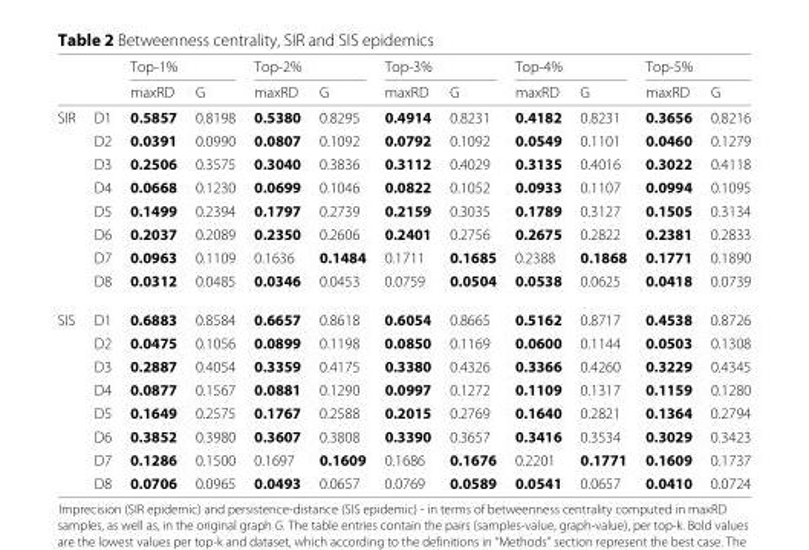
<table><thead><tr><td rowspan="2"></td><td rowspan="2"></td><td colspan="2">Top-1%</td><td colspan="2">Top-2%</td><td colspan="2">Top-3%</td><td colspan="2">Top-4%</td><td colspan="2">Top-5%</td></tr><tr><td>maxRD</td><td>G</td><td>maxRD</td><td>G</td><td>maxRD</td><td>G</td><td>maxRD</td><td>G</td><td>maxRD</td><td>G</td></tr></thead><tbody><tr><td rowspan="8">SIR</td><td>D1</td><td>0.5857</td><td>0.8198</td><td>0.5380</td><td>0.8295</td><td>0.4914</td><td>0.8231</td><td>0.4182</td><td>0.8231</td><td>0.3656</td><td>0.8216</td></tr><tr><td>D2</td><td>0.0391</td><td>0.0990</td><td>0.0807</td><td>0.1092</td><td>0.0792</td><td>0.1092</td><td>0.0549</td><td>0.1101</td><td>0.0460</td><td>0.1279</td></tr><tr><td>D3</td><td>0.2506</td><td>0.3575</td><td>0.3040</td><td>0.3836</td><td>0.3112</td><td>0.4029</td><td>0.3135</td><td>0.4016</td><td>0.3022</td><td>0.4118</td></tr><tr><td>D4</td><td>0.0668</td><td>0.1230</td><td>0.0699</td><td>0.1046</td><td>0.0822</td><td>0.1052</td><td>0.0933</td><td>0.1107</td><td>0.0994</td><td>0.1095</td></tr><tr><td>D5</td><td>0.1499</td><td>0.2394</td><td>0.1797</td><td>0.2739</td><td>0.2159</td><td>0.3035</td><td>0.1789</td><td>0.3127</td><td>0.1505</td><td>0.3134</td></tr><tr><td>D6</td><td>0.2037</td><td>0.2089</td><td>0.2350</td><td>0.2606</td><td>0.2401</td><td>0.2756</td><td>0.2675</td><td>0.2822</td><td>0.2381</td><td>0.2833</td></tr><tr><td>D7</td><td>0.0963</td><td>0.1109</td><td>0.1636</td><td>0.1484</td><td>0.1711</td><td>0.1685</td><td>0.2388</td><td>0.1868</td><td>0.1771</td><td>0.1890</td></tr><tr><td>D8</td><td>0.0312</td><td>0.0485</td><td>0.0346</td><td>0.0453</td><td>0.0759</td><td>0.0504</td><td>0.0538</td><td>0.0625</td><td>0.0418</td><td>0.0739</td></tr><tr><td rowspan="8">SIS</td><td>D1</td><td>0.6883</td><td>0.8584</td><td>0.6657</td><td>0.8618</td><td>0.6054</td><td>0.8665</td><td>0.5162</td><td>0.8717</td><td>0.4538</td><td>0.8726</td></tr><tr><td>D2</td><td>0.0475</td><td>0.1056</td><td>0.0899</td><td>0.1198</td><td>0.0850</td><td>0.1169</td><td>0.0600</td><td>0.1144</td><td>0.0503</td><td>0.1308</td></tr><tr><td>D3</td><td>0.2887</td><td>0.4054</td><td>0.3359</td><td>0.4175</td><td>0.3380</td><td>0.4326</td><td>0.3366</td><td>0.4260</td><td>0.3229</td><td>0.4345</td></tr><tr><td>D4</td><td>0.0877</td><td>0.1567</td><td>0.0881</td><td>0.1290</td><td>0.0997</td><td>0.1272</td><td>0.1109</td><td>0.1317</td><td>0.1159</td><td>0.1280</td></tr><tr><td>D5</td><td>0.1649</td><td>0.2575</td><td>0.1767</td><td>0.2588</td><td>0.2015</td><td>0.2769</td><td>0.1640</td><td>0.2821</td><td>0.1364</td><td>0.2794</td></tr><tr><td>D6</td><td>0.3852</td><td>0.3980</td><td>0.3607</td><td>0.3808</td><td>0.3390</td><td>0.3657</td><td>0.3416</td><td>0.3534</td><td>0.3029</td><td>0.3423</td></tr><tr><td>D7</td><td>0.1286</td><td>0.1500</td><td>0.1697</td><td>0.1609</td><td>0.1686</td><td>0.1676</td><td>0.2201</td><td>0.1771</td><td>0.1609</td><td>0.1737</td></tr><tr><td>D8</td><td>0.0706</td><td>0.0965</td><td>0.0493</td><td>0.0657</td><td>0.0769</td><td>0.0589</td><td>0.0541</td><td>0.0657</td><td>0.0410</td><td>0.0724</td></tr></tbody></table>